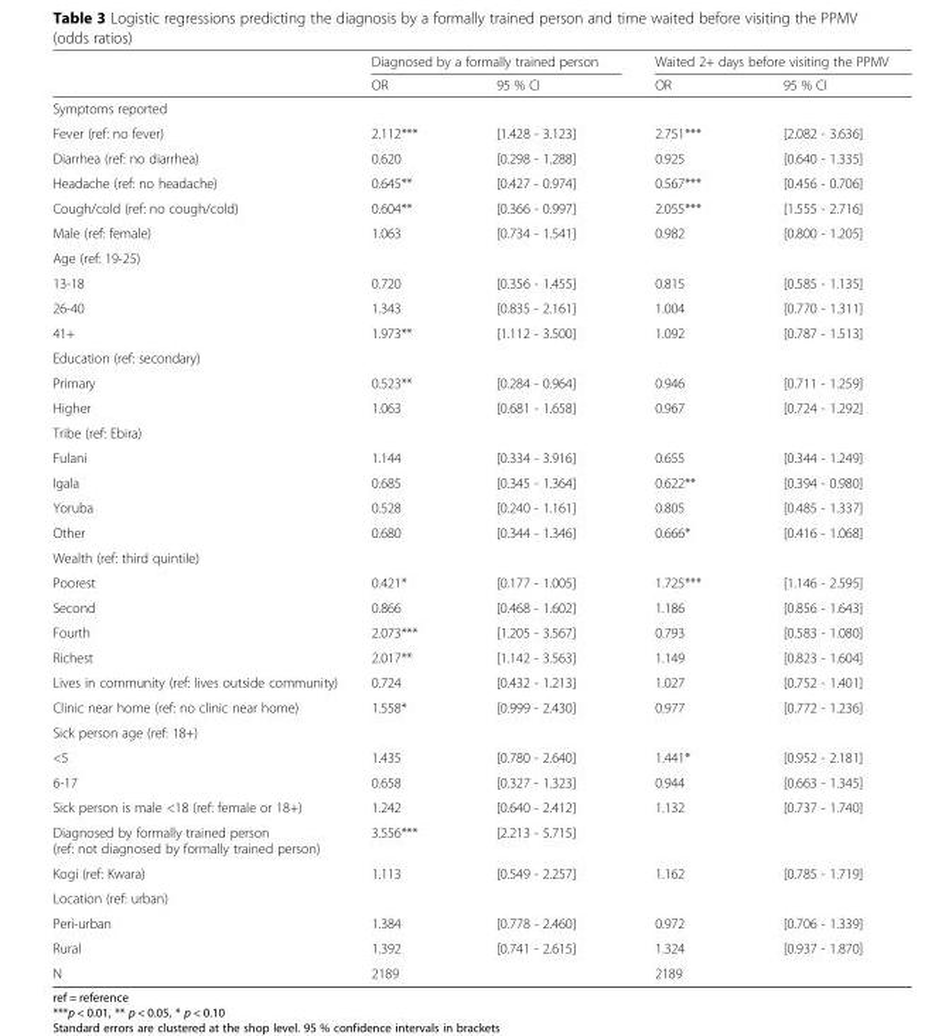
<table><thead><tr><td rowspan="2"></td><td colspan="2">Diagnosed by a formally trained person</td><td colspan="2">Waited 2+ days before visiting the PPMV</td></tr><tr><td>OR</td><td>95 % CI</td><td>OR</td><td>95 % CI</td></tr></thead><tbody><tr><td colspan="5">Symptoms reported</td></tr><tr><td>Fever (ref: no fever)</td><td>2.112***</td><td>[1.428 - 3.123]</td><td>2.751***</td><td>[2.082 - 3.636]</td></tr><tr><td>Diarrhea (ref: no diarrhea)</td><td>0.620</td><td>[0.298 - 1.288]</td><td>0.925</td><td>[0.640 - 1.335]</td></tr><tr><td>Headache (ref: no headache)</td><td>0.645**</td><td>[0.427 - 0.974]</td><td>0.567***</td><td>[0.456 - 0.706]</td></tr><tr><td>Cough/cold (ref: no cough/cold)</td><td>0.604**</td><td>[0.366 - 0.997]</td><td>2.055***</td><td>[1.555 - 2.716]</td></tr><tr><td>Male (ref: female)</td><td>1.063</td><td>[0.734 - 1.541]</td><td>0.982</td><td>[0.800 - 1.205]</td></tr><tr><td colspan="5">Age (ref: 19-25)</td></tr><tr><td>13-18</td><td>0.720</td><td>[0.356 - 1.455]</td><td>0.815</td><td>[0.585 - 1.135]</td></tr><tr><td>26-40</td><td>1.343</td><td>[0.835 - 2.161]</td><td>1.004</td><td>[0.770 - 1.311]</td></tr><tr><td>41+</td><td>1.973**</td><td>[1.112 - 3.500]</td><td>1.092</td><td>[0.787 - 1.513]</td></tr><tr><td colspan="5">Education (ref: secondary)</td></tr><tr><td>Primary</td><td>0.523**</td><td>[0.284 - 0.964]</td><td>0.946</td><td>[0.711 - 1.259]</td></tr><tr><td>Higher</td><td>1.063</td><td>[0.681 - 1.658]</td><td>0.967</td><td>[0.724 - 1.292]</td></tr><tr><td colspan="5">Tribe (ref: Ebira)</td></tr><tr><td>Fulani</td><td>1.144</td><td>[0.334 - 3.916]</td><td>0.655</td><td>[0.344 - 1.249]</td></tr><tr><td>Igala</td><td>0.685</td><td>[0.345 - 1.364]</td><td>0.622**</td><td>[0.394 - 0.980]</td></tr><tr><td>Yoruba</td><td>0.528</td><td>[0.240 - 1.161]</td><td>0.805</td><td>[0.485 - 1.337]</td></tr><tr><td>Other</td><td>0.680</td><td>[0.344 - 1.346]</td><td>0.666*</td><td>[0.416 - 1.068]</td></tr><tr><td colspan="5">Wealth (ref: third quintile)</td></tr><tr><td>Poorest</td><td>0.421*</td><td>[0.177 - 1.005]</td><td>1.725***</td><td>[1.146 - 2.595]</td></tr><tr><td>Second</td><td>0.866</td><td>[0.468 - 1.602]</td><td>1.186</td><td>[0.856 - 1.643]</td></tr><tr><td>Fourth</td><td>2.073***</td><td>[1.205 - 3.567]</td><td>0.793</td><td>[0.583 - 1.080]</td></tr><tr><td>Richest</td><td>2.017**</td><td>[1.142 - 3.563]</td><td>1.149</td><td>[0.823 - 1.604]</td></tr><tr><td>Lives in community (ref: lives outside community)</td><td>0.724</td><td>[0.432 - 1.213]</td><td>1.027</td><td>[0.752 - 1.401]</td></tr><tr><td>Clinic near home (ref: no clinic near home)</td><td>1.558*</td><td>[0.999 - 2.430]</td><td>0.977</td><td>[0.772 - 1.236]</td></tr><tr><td colspan="5">Sick person age (ref: 18+)</td></tr><tr><td>&lt;5</td><td>1.435</td><td>[0.780 - 2.640]</td><td>1.441*</td><td>[0.952 - 2.181]</td></tr><tr><td>6-17</td><td>0.658</td><td>[0.327 - 1.323]</td><td>0.944</td><td>[0.663 - 1.345]</td></tr><tr><td>Sick person is male &lt;18 (ref: female or 18+)</td><td>1.242</td><td>[0.640 - 2.412]</td><td>1.132</td><td>[0.737 - 1.740]</td></tr><tr><td>Diagnosed by formally trained person (ref: not diagnosed by formally trained person)</td><td>3.556***</td><td>[2.213 - 5.715]</td><td></td><td></td></tr><tr><td>Kogi (ref: Kwara)</td><td>1.113</td><td>[0.549 - 2.257]</td><td>1.162</td><td>[0.785 - 1.719]</td></tr><tr><td colspan="5">Location (ref: urban)</td></tr><tr><td>Peri-urban</td><td>1.384</td><td>[0.778 - 2.460]</td><td>0.972</td><td>[0.706 - 1.339]</td></tr><tr><td>Rural</td><td>1.392</td><td>[0.741 - 2.615]</td><td>1.324</td><td>[0.937 - 1.870]</td></tr><tr><td>N</td><td>2189</td><td></td><td>2189</td><td></td></tr></tbody></table>